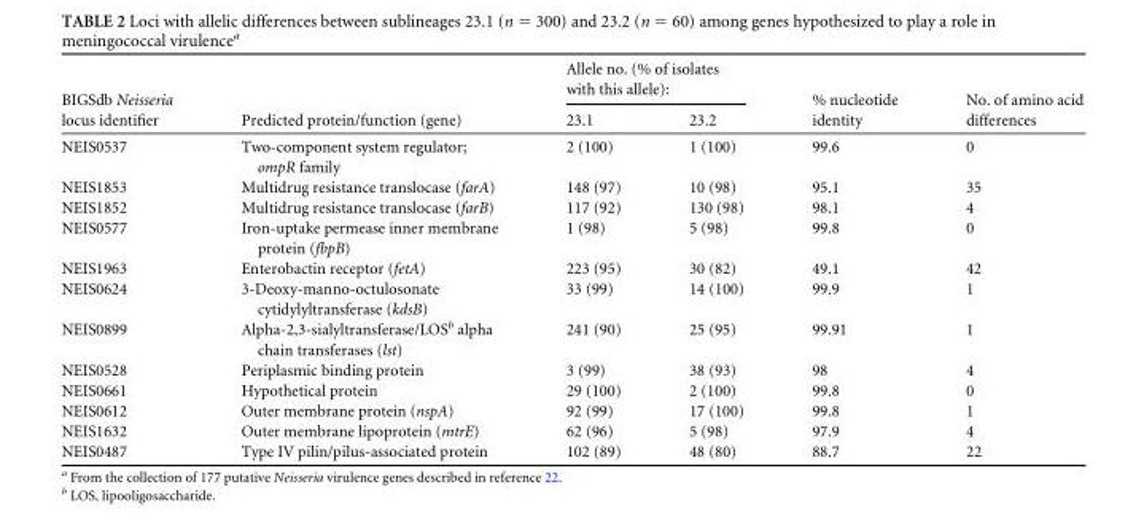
<table><thead><tr><td rowspan="2">BIGSdb Neisseria locus identifier</td><td rowspan="2">Predicted protein/function (gene)</td><td colspan="2">Allele no. (% of isolates with this allele):</td><td rowspan="2">% nucleotide identity</td><td rowspan="2">No. of amino acid differences</td></tr><tr><td>23.1</td><td>23.2</td></tr></thead><tbody><tr><td>NEIS0537</td><td>Two-component system regulator; ompR family</td><td>2 (100)</td><td>1 (100)</td><td>99.6</td><td>0</td></tr><tr><td>NEIS1853</td><td>Multidrug resistance translocase (farA)</td><td>148 (97)</td><td>10 (98)</td><td>95.1</td><td>35</td></tr><tr><td>NEIS1852</td><td>Multidrug resistance translocase (farB)</td><td>117 (92)</td><td>130 (98)</td><td>98.1</td><td>4</td></tr><tr><td>NEIS0577</td><td>Iron-uptake permease inner membrane protein (fbpB)</td><td>1 (98)</td><td>5 (98)</td><td>99.8</td><td>0</td></tr><tr><td>NEIS1963</td><td>Enterobactin receptor (fetA)</td><td>223 (95)</td><td>30 (82)</td><td>49.1</td><td>42</td></tr><tr><td>NEIS0624</td><td>3-Deoxy-manno-octulosonate cytidylyltransferase (kdsB)</td><td>33 (99)</td><td>14 (100)</td><td>99.9</td><td>1</td></tr><tr><td>NEIS0899</td><td>Alpha-2,3-sialyltransferase/LOS<sup>b</sup> alpha chain transferases (lst)</td><td>241 (90)</td><td>25 (95)</td><td>99.91</td><td>1</td></tr><tr><td>NEIS0528</td><td>Periplasmic binding protein</td><td>3 (99)</td><td>38 (93)</td><td>98</td><td>4</td></tr><tr><td>NEIS0661</td><td>Hypothetical protein</td><td>29 (100)</td><td>2 (100)</td><td>99.8</td><td>0</td></tr><tr><td>NEIS0612</td><td>Outer membrane protein (nspA)</td><td>92 (99)</td><td>17 (100)</td><td>99.8</td><td>1</td></tr><tr><td>NEIS1632</td><td>Outer membrane lipoprotein (mtrE)</td><td>62 (96)</td><td>5 (98)</td><td>97.9</td><td>4</td></tr><tr><td>NEIS0487</td><td>Type IV pilin/pilus-associated protein</td><td>102 (89)</td><td>48 (80)</td><td>88.7</td><td>22</td></tr></tbody></table>